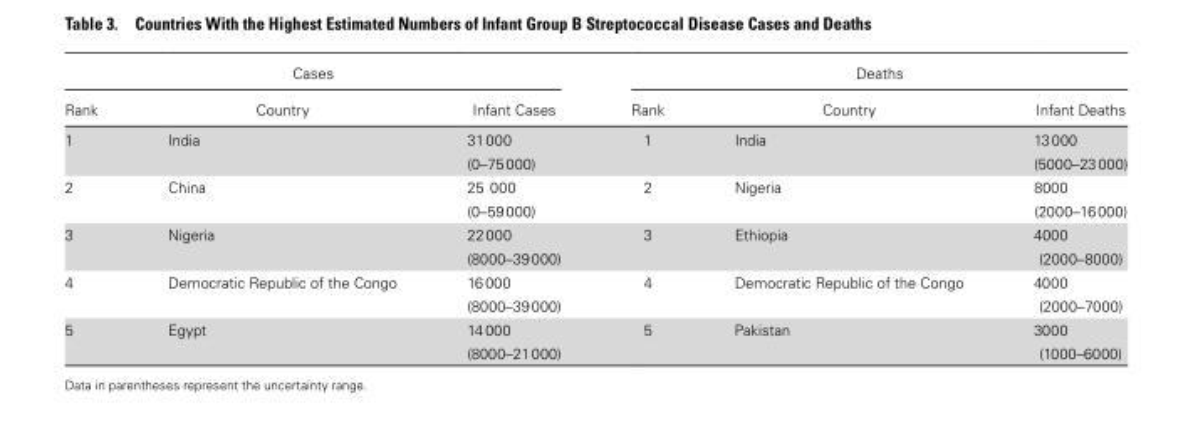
<table><thead><tr><td colspan="3">Cases</td><td colspan="3">Deaths</td></tr><tr><td>Rank</td><td>Country</td><td>Infant Cases</td><td>Rank</td><td>Country</td><td>Infant Deaths</td></tr></thead><tbody><tr><td rowspan="2">1</td><td>India</td><td>31 000</td><td>1</td><td>India</td><td>13 000</td></tr><tr><td></td><td>(0–75 000)</td><td></td><td></td><td>(5000–23 000)</td></tr><tr><td rowspan="2">2</td><td>China</td><td>25 000</td><td>2</td><td>Nigeria</td><td>8000</td></tr><tr><td></td><td>(0–59 000)</td><td></td><td></td><td>(2000–16 000)</td></tr><tr><td rowspan="2">3</td><td>Nigeria</td><td>22 000</td><td>3</td><td>Ethiopia</td><td>4000</td></tr><tr><td></td><td>(8000–39 000)</td><td></td><td></td><td>(2000–8000)</td></tr><tr><td rowspan="2">4</td><td rowspan="2">Democratic Republic of the Congo</td><td>16 000</td><td>4</td><td rowspan="2">Democratic Republic of the Congo</td><td>4000</td></tr><tr><td>(8000–39 000)</td><td></td><td>(2000–7000)</td></tr><tr><td rowspan="2">5</td><td>Egypt</td><td>14 000</td><td>5</td><td>Pakistan</td><td>3000</td></tr><tr><td></td><td>(8000–21 000)</td><td></td><td></td><td>(1000–6000)</td></tr></tbody></table>